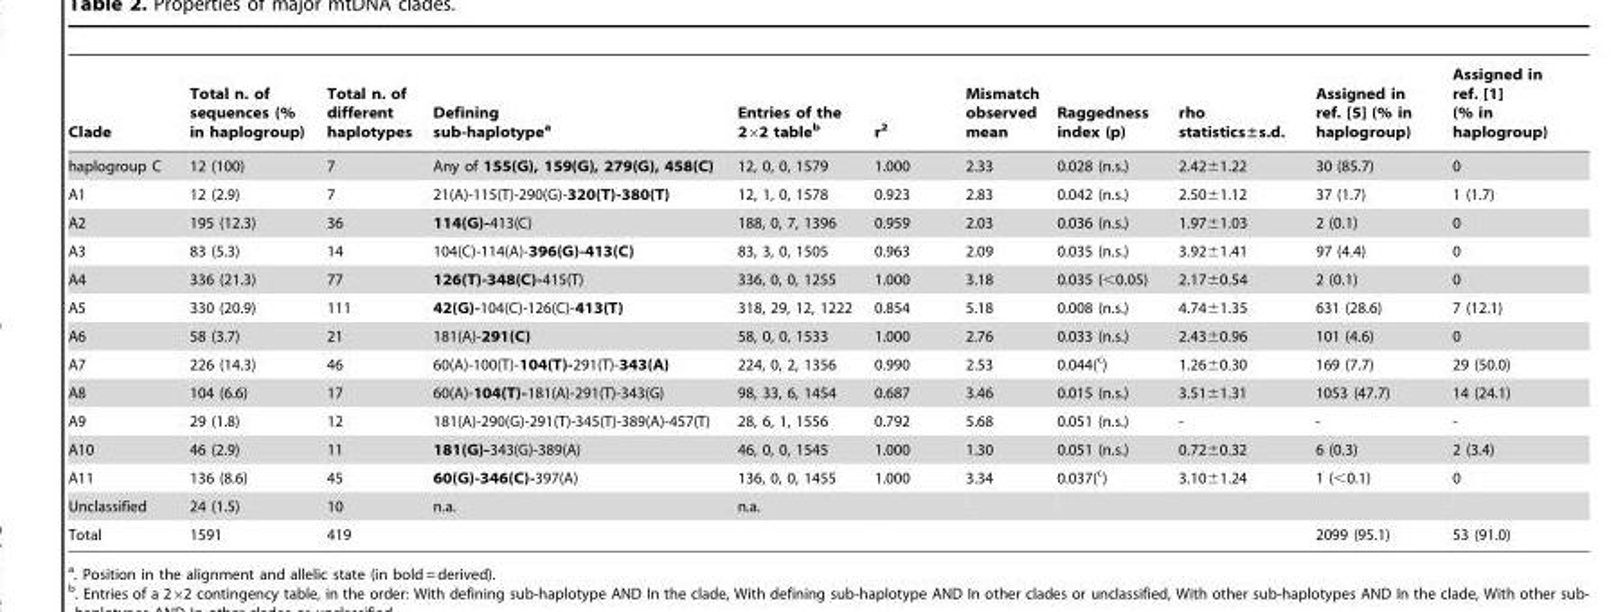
<table><thead><tr><td>Clade</td><td>Total n. of sequences (% in haplogroup)</td><td>Total n. of different haplotypes</td><td>Defining sub-haplotype<sup>a</sup></td><td>Entries of the 2×2 table<sup>b</sup></td><td>r<sup>2</sup></td><td>Mismatch observed mean</td><td>Raggedness index (p)</td><td>rho statistics±s.d.</td><td>Assigned in ref. [5] (% in haplogroup)</td><td>Assigned in ref. [1] (% in haplogroup)</td></tr></thead><tbody><tr><td>haplogroup C</td><td>12 (100)</td><td>7</td><td>Any of 155(G), 159(G), 279(G), 458(C)</td><td>12, 0, 0, 1579</td><td>1.000</td><td>2.33</td><td>0.028 (n.s.)</td><td>2.42±1.22</td><td>30 (85.7)</td><td>0</td></tr><tr><td>A1</td><td>12 (2.9)</td><td>7</td><td>21(A)-115(T)-290(G)-320(T)-380(T)</td><td>12, 1, 0, 1578</td><td>0.923</td><td>2.83</td><td>0.042 (n.s.)</td><td>2.50±1.12</td><td>37 (1.7)</td><td>1 (1.7)</td></tr><tr><td>A2</td><td>195 (12.3)</td><td>36</td><td>114(G)-413(C)</td><td>188, 0, 7, 1396</td><td>0.959</td><td>2.03</td><td>0.036 (n.s.)</td><td>1.97±1.03</td><td>2 (0.1)</td><td>0</td></tr><tr><td>A3</td><td>83 (5.3)</td><td>14</td><td>104(C)-114(A)-396(G)-413(C)</td><td>83, 3, 0, 1505</td><td>0.963</td><td>2.09</td><td>0.035 (n.s.)</td><td>3.92±1.41</td><td>97 (4.4)</td><td>0</td></tr><tr><td>A4</td><td>336 (21.3)</td><td>77</td><td>126(T)-348(C)-415(T)</td><td>336, 0, 0, 1255</td><td>1.000</td><td>3.18</td><td>0.035 (&lt;0.05)</td><td>2.17±0.54</td><td>2 (0.1)</td><td>0</td></tr><tr><td>A5</td><td>330 (20.9)</td><td>111</td><td>42(G)-104(C)-126(C)-413(T)</td><td>318, 29, 12, 1222</td><td>0.854</td><td>5.18</td><td>0.008 (n.s.)</td><td>4.74±1.35</td><td>631 (28.6)</td><td>7 (12.1)</td></tr><tr><td>A6</td><td>58 (3.7)</td><td>21</td><td>181(A)-291(C)</td><td>58, 0, 0, 1533</td><td>1.000</td><td>2.76</td><td>0.033 (n.s.)</td><td>2.43±0.96</td><td>101 (4.6)</td><td>0</td></tr><tr><td>A7</td><td>226 (14.3)</td><td>46</td><td>60(A)-100(T)-104(T)-291(T)-343(A)</td><td>224, 0, 2, 1356</td><td>0.990</td><td>2.53</td><td>0.044(c)</td><td>1.26±0.30</td><td>169 (7.7)</td><td>29 (50.0)</td></tr><tr><td>A8</td><td>104 (6.6)</td><td>17</td><td>60(A)-104(T)-181(A)-291(T)-343(G)</td><td>98, 33, 6, 1454</td><td>0.687</td><td>3.46</td><td>0.015 (n.s.)</td><td>3.51±1.31</td><td>1053 (47.7)</td><td>14 (24.1)</td></tr><tr><td>A9</td><td>29 (1.8)</td><td>12</td><td>181(A)-290(G)-291(T)-345(T)-389(A)-457(T)</td><td>28, 6, 1, 1556</td><td>0.792</td><td>5.68</td><td>0.051 (n.s.)</td><td>-</td><td>-</td><td>-</td></tr><tr><td>A10</td><td>46 (2.9)</td><td>11</td><td>181(G)-343(G)-389(A)</td><td>46, 0, 0, 1545</td><td>1.000</td><td>1.30</td><td>0.051 (n.s.)</td><td>0.72±0.32</td><td>6 (0.3)</td><td>2 (3.4)</td></tr><tr><td>A11</td><td>136 (8.6)</td><td>45</td><td>60(G)-346(C)-397(A)</td><td>136, 0, 0, 1455</td><td>1.000</td><td>3.34</td><td>0.037(c)</td><td>3.10±1.24</td><td>1 (&lt;0.1)</td><td>0</td></tr><tr><td>Unclassified</td><td>24 (1.5)</td><td>10</td><td>n.a.</td><td>n.a.</td><td></td><td></td><td></td><td></td><td></td><td></td></tr><tr><td>Total</td><td>1591</td><td>419</td><td></td><td></td><td></td><td></td><td></td><td></td><td>2099 (95.1)</td><td>53 (91.0)</td></tr></tbody></table>